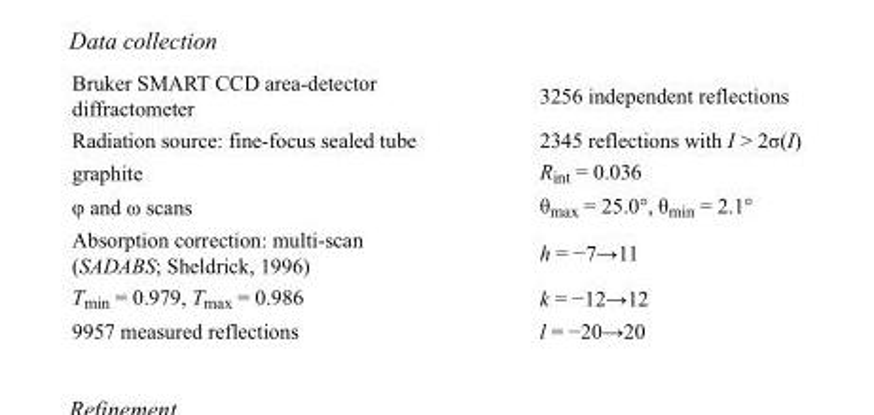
<table><tbody><tr><td>Bruker SMART CCD area-detector diffractometer</td><td>3256 independent reflections</td></tr><tr><td>Radiation source: fine-focus sealed tube</td><td>2345 reflections with I &gt; 2σ(I)</td></tr><tr><td>graphite</td><td>R<sub>int</sub> = 0.036</td></tr><tr><td>φ and ω scans</td><td>θ<sub>max</sub> = 25.0°, θ<sub>min</sub> = 2.1°</td></tr><tr><td>Absorption correction: multi-scan (SADABS; Sheldrick, 1996)</td><td>h = −7→11</td></tr><tr><td>T<sub>min</sub> = 0.979, T<sub>max</sub> = 0.986</td><td>k = −12→12</td></tr><tr><td>9957 measured reflections</td><td>l = −20→20</td></tr></tbody></table>